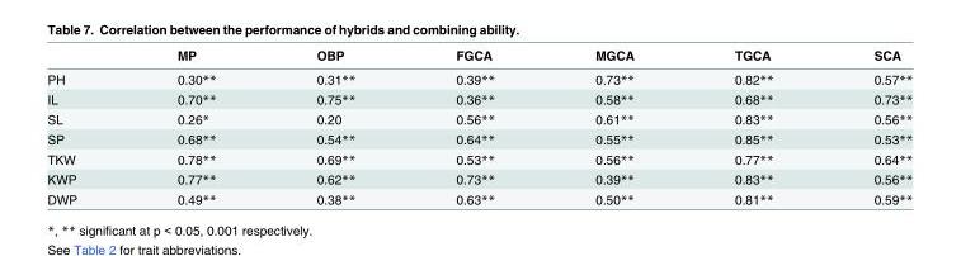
<table><thead><tr><td></td><td>MP</td><td>OBP</td><td>FGCA</td><td>MGCA</td><td>TGCA</td><td>SCA</td></tr></thead><tbody><tr><td>PH</td><td>0.30**</td><td>0.31**</td><td>0.39**</td><td>0.73**</td><td>0.82**</td><td>0.57**</td></tr><tr><td>IL</td><td>0.70**</td><td>0.75**</td><td>0.36**</td><td>0.58**</td><td>0.68**</td><td>0.73**</td></tr><tr><td>SL</td><td>0.26*</td><td>0.20</td><td>0.56**</td><td>0.61**</td><td>0.83**</td><td>0.56**</td></tr><tr><td>SP</td><td>0.68**</td><td>0.54**</td><td>0.64**</td><td>0.55**</td><td>0.85**</td><td>0.53**</td></tr><tr><td>TKW</td><td>0.78**</td><td>0.69**</td><td>0.53**</td><td>0.56**</td><td>0.77**</td><td>0.64**</td></tr><tr><td>KWP</td><td>0.77**</td><td>0.62**</td><td>0.73**</td><td>0.39**</td><td>0.83**</td><td>0.56**</td></tr><tr><td>DWP</td><td>0.49**</td><td>0.38**</td><td>0.63**</td><td>0.50**</td><td>0.81**</td><td>0.59**</td></tr></tbody></table>